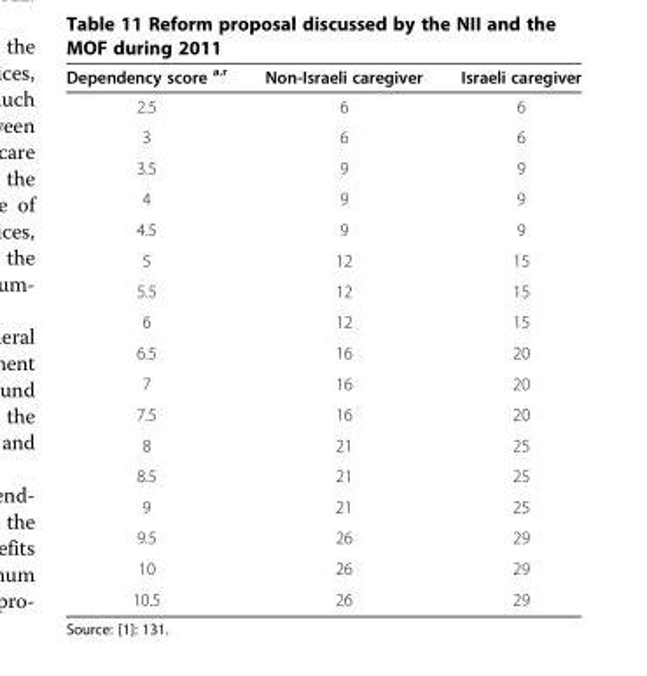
<table><thead><tr><td>Dependency score <sup>a.r</sup></td><td>Non-Israeli caregiver</td><td>Israeli caregiver</td></tr></thead><tbody><tr><td>2.5</td><td>6</td><td>6</td></tr><tr><td>3</td><td>6</td><td>6</td></tr><tr><td>3.5</td><td>9</td><td>9</td></tr><tr><td>4</td><td>9</td><td>9</td></tr><tr><td>4.5</td><td>9</td><td>9</td></tr><tr><td>5</td><td>12</td><td>15</td></tr><tr><td>5.5</td><td>12</td><td>15</td></tr><tr><td>6</td><td>12</td><td>15</td></tr><tr><td>6.5</td><td>16</td><td>20</td></tr><tr><td>7</td><td>16</td><td>20</td></tr><tr><td>7.5</td><td>16</td><td>20</td></tr><tr><td>8</td><td>21</td><td>25</td></tr><tr><td>8.5</td><td>21</td><td>25</td></tr><tr><td>9</td><td>21</td><td>25</td></tr><tr><td>9.5</td><td>26</td><td>29</td></tr><tr><td>10</td><td>26</td><td>29</td></tr><tr><td>10.5</td><td>26</td><td>29</td></tr></tbody></table>